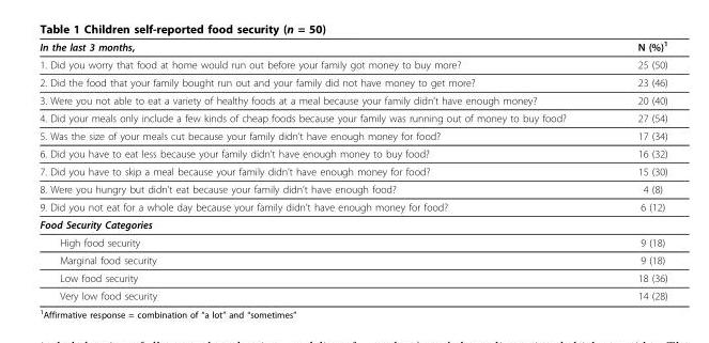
<table><thead><tr><td>In the last 3 months,</td><td>N (%)<sup>1</sup></td></tr></thead><tbody><tr><td>1. Did you worry that food at home would run out before your family got money to buy more?</td><td>25 (50)</td></tr><tr><td>2. Did the food that your family bought run out and your family did not have money to get more?</td><td>23 (46)</td></tr><tr><td>3. Were you not able to eat a variety of healthy foods at a meal because your family didn’t have enough money?</td><td>20 (40)</td></tr><tr><td>4. Did your meals only include a few kinds of cheap foods because your family was running out of money to buy food?</td><td>27 (54)</td></tr><tr><td>5. Was the size of your meals cut because your family didn’t have enough money for food?</td><td>17 (34)</td></tr><tr><td>6. Did you have to eat less because your family didn’t have enough money to buy food?</td><td>16 (32)</td></tr><tr><td>7. Did you have to skip a meal because your family didn’t have enough money for food?</td><td>15 (30)</td></tr><tr><td>8. Were you hungry but didn’t eat because your family didn’t have enough food?</td><td>4 (8)</td></tr><tr><td>9. Did you not eat for a whole day because your family didn’t have enough money for food?</td><td>6 (12)</td></tr><tr><td colspan="2">Food Security Categories</td></tr><tr><td>High food security</td><td>9 (18)</td></tr><tr><td>Marginal food security</td><td>9 (18)</td></tr><tr><td>Low food security</td><td>18 (36)</td></tr><tr><td>Very low food security</td><td>14 (28)</td></tr></tbody></table>